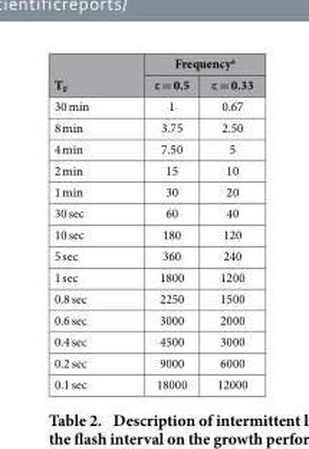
<table><thead><tr><td rowspan="2">T<sub>F</sub></td><td colspan="2">Frequency<sup>a</sup></td></tr><tr><td>ε = 0.5</td><td>ε = 0.33</td></tr></thead><tbody><tr><td>30 min</td><td>1</td><td>0.67</td></tr><tr><td>8 min</td><td>3.75</td><td>2.50</td></tr><tr><td>4 min</td><td>7.50</td><td>5</td></tr><tr><td>2 min</td><td>15</td><td>10</td></tr><tr><td>1 min</td><td>30</td><td>20</td></tr><tr><td>30 sec</td><td>60</td><td>40</td></tr><tr><td>10 sec</td><td>180</td><td>120</td></tr><tr><td>5 sec</td><td>360</td><td>240</td></tr><tr><td>1 sec</td><td>1800</td><td>1200</td></tr><tr><td>0.8 sec</td><td>2250</td><td>1500</td></tr><tr><td>0.6 sec</td><td>3000</td><td>2000</td></tr><tr><td>0.4 sec</td><td>4500</td><td>3000</td></tr><tr><td>0.2 sec</td><td>9000</td><td>6000</td></tr><tr><td>0.1 sec</td><td>18000</td><td>12000</td></tr></tbody></table>